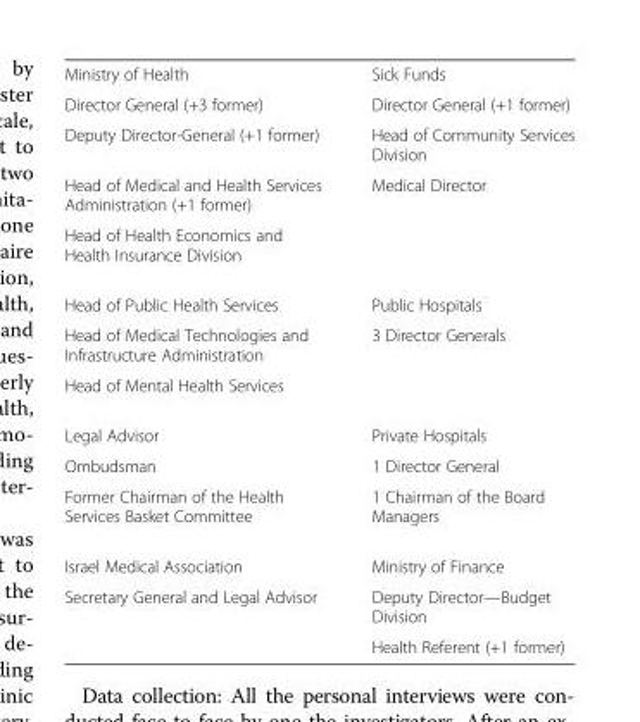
<table><tbody><tr><td>Ministry of Health</td><td>Sick Funds</td></tr><tr><td>Director General (+3 former)</td><td>Director General (+1 former)</td></tr><tr><td>Deputy Director-General (+1 former)</td><td>Head of Community Services Division</td></tr><tr><td>Head of Medical and Health Services Administration (+1 former)</td><td>Medical Director</td></tr><tr><td colspan="2">Head of Health Economics and Health Insurance Division</td></tr><tr><td>Head of Public Health Services</td><td>Public Hospitals</td></tr><tr><td>Head of Medical Technologies and Infrastructure Administration</td><td>3 Director Generals</td></tr><tr><td colspan="2">Head of Mental Health Services</td></tr><tr><td>Legal Advisor</td><td>Private Hospitals</td></tr><tr><td>Ombudsman</td><td>1 Director General</td></tr><tr><td>Former Chairman of the Health Services Basket Committee</td><td>1 Chairman of the Board Managers</td></tr><tr><td>Israel Medical Association</td><td>Ministry of Finance</td></tr><tr><td rowspan="2">Secretary General and Legal Advisor</td><td>Deputy Director—Budget Division</td></tr><tr><td>Health Referent (+1 former)</td></tr></tbody></table>